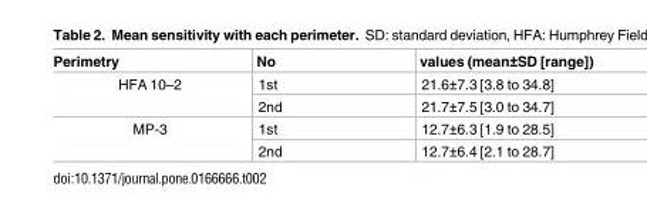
<table><thead><tr><td>Perimetry</td><td>No</td><td>values (mean±SD [range])</td></tr></thead><tbody><tr><td rowspan="2">HFA 10–2</td><td>1st</td><td>21.6±7.3 [3.8 to 34.8]</td></tr><tr><td>2nd</td><td>21.7±7.5 [3.0 to 34.7]</td></tr><tr><td rowspan="2">MP-3</td><td>1st</td><td>12.7±6.3 [1.9 to 28.5]</td></tr><tr><td>2nd</td><td>12.7±6.4 [2.1 to 28.7]</td></tr></tbody></table>